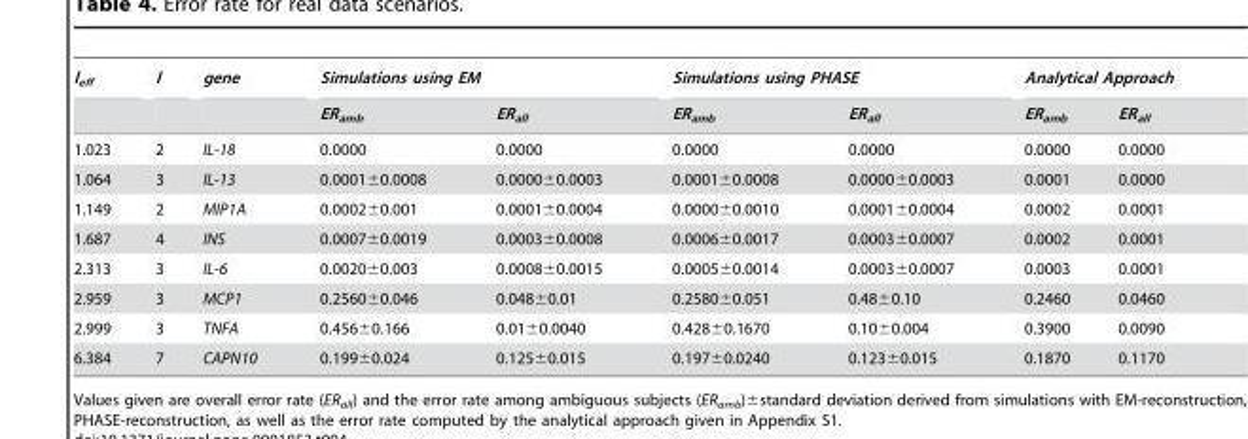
<table><thead><tr><td rowspan="2">l<sub>eff</sub></td><td rowspan="2">l</td><td rowspan="2">gene</td><td colspan="2">Simulations using EM</td><td colspan="2">Simulations using PHASE</td><td colspan="2">Analytical Approach</td></tr><tr><td>ER<sub>amb</sub></td><td>ER<sub>all</sub></td><td>ER<sub>amb</sub></td><td>ER<sub>all</sub></td><td>ER<sub>amb</sub></td><td>ER<sub>all</sub></td></tr></thead><tbody><tr><td>1.023</td><td>2</td><td>IL-18</td><td>0.0000</td><td>0.0000</td><td>0.0000</td><td>0.0000</td><td>0.0000</td><td>0.0000</td></tr><tr><td>1.064</td><td>3</td><td>IL-13</td><td>0.0001±0.0008</td><td>0.0000±0.0003</td><td>0.0001±0.0008</td><td>0.0000±0.0003</td><td>0.0001</td><td>0.0000</td></tr><tr><td>1.149</td><td>2</td><td>MIP1A</td><td>0.0002±0.001</td><td>0.0001±0.0004</td><td>0.0000±0.0010</td><td>0.0001±0.0004</td><td>0.0002</td><td>0.0001</td></tr><tr><td>1.687</td><td>4</td><td>INS</td><td>0.0007±0.0019</td><td>0.0003±0.0008</td><td>0.0006±0.0017</td><td>0.0003±0.0007</td><td>0.0002</td><td>0.0001</td></tr><tr><td>2.313</td><td>3</td><td>IL-6</td><td>0.0020±0.003</td><td>0.0008±0.0015</td><td>0.0005±0.0014</td><td>0.0003±0.0007</td><td>0.0003</td><td>0.0001</td></tr><tr><td>2.959</td><td>3</td><td>MCP1</td><td>0.2560±0.046</td><td>0.048±0.01</td><td>0.2580±0.051</td><td>0.48±0.10</td><td>0.2460</td><td>0.0460</td></tr><tr><td>2.999</td><td>3</td><td>TNFA</td><td>0.456±0.166</td><td>0.01±0.0040</td><td>0.428±0.1670</td><td>0.10±0.004</td><td>0.3900</td><td>0.0090</td></tr><tr><td>6.384</td><td>7</td><td>CAPN10</td><td>0.199±0.024</td><td>0.125±0.015</td><td>0.197±0.0240</td><td>0.123±0.015</td><td>0.1870</td><td>0.1170</td></tr></tbody></table>